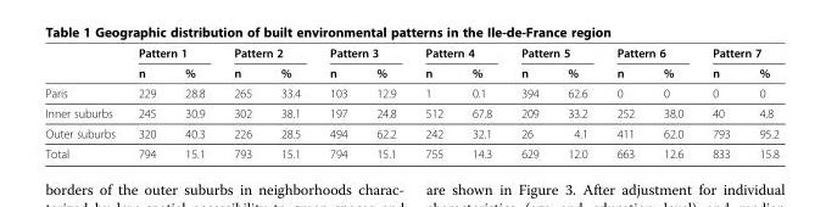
<table><thead><tr><td rowspan="2"></td><td colspan="2">Pattern 1</td><td colspan="2">Pattern 2</td><td colspan="2">Pattern 3</td><td colspan="2">Pattern 4</td><td colspan="2">Pattern 5</td><td colspan="2">Pattern 6</td><td colspan="2">Pattern 7</td></tr><tr><td>n</td><td>%</td><td>n</td><td>%</td><td>n</td><td>%</td><td>n</td><td>%</td><td>n</td><td>%</td><td>n</td><td>%</td><td>n</td><td>%</td></tr></thead><tbody><tr><td>Paris</td><td>229</td><td>28.8</td><td>265</td><td>33.4</td><td>103</td><td>12.9</td><td>1</td><td>0.1</td><td>394</td><td>62.6</td><td>0</td><td>0</td><td>0</td><td>0</td></tr><tr><td>Inner suburbs</td><td>245</td><td>30.9</td><td>302</td><td>38.1</td><td>197</td><td>24.8</td><td>512</td><td>67.8</td><td>209</td><td>33.2</td><td>252</td><td>38.0</td><td>40</td><td>4.8</td></tr><tr><td>Outer suburbs</td><td>320</td><td>40.3</td><td>226</td><td>28.5</td><td>494</td><td>62.2</td><td>242</td><td>32.1</td><td>26</td><td>4.1</td><td>411</td><td>62.0</td><td>793</td><td>95.2</td></tr><tr><td>Total</td><td>794</td><td>15.1</td><td>793</td><td>15.1</td><td>794</td><td>15.1</td><td>755</td><td>14.3</td><td>629</td><td>12.0</td><td>663</td><td>12.6</td><td>833</td><td>15.8</td></tr></tbody></table>